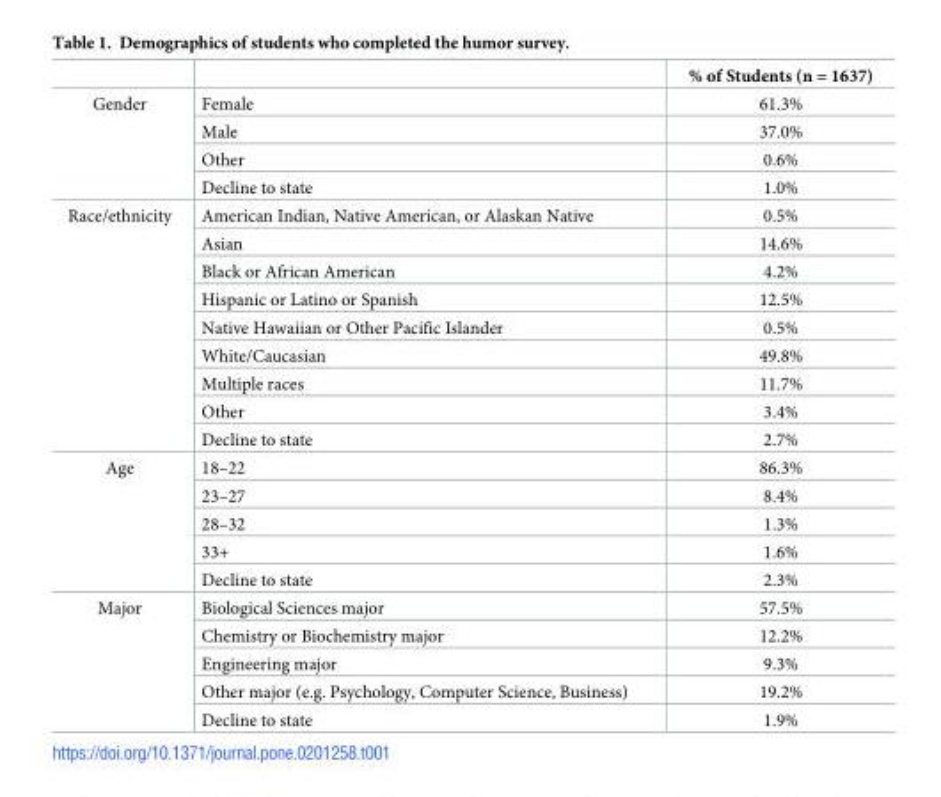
<table><thead><tr><td></td><td></td><td>% of Students (n = 1637)</td></tr></thead><tbody><tr><td rowspan="4">Gender</td><td>Female</td><td>61.3%</td></tr><tr><td>Male</td><td>37.0%</td></tr><tr><td>Other</td><td>0.6%</td></tr><tr><td>Decline to state</td><td>1.0%</td></tr><tr><td rowspan="9">Race/ethnicity</td><td>American Indian, Native American, or Alaskan Native</td><td>0.5%</td></tr><tr><td>Asian</td><td>14.6%</td></tr><tr><td>Black or African American</td><td>4.2%</td></tr><tr><td>Hispanic or Latino or Spanish</td><td>12.5%</td></tr><tr><td>Native Hawaiian or Other Pacific Islander</td><td>0.5%</td></tr><tr><td>White/Caucasian</td><td>49.8%</td></tr><tr><td>Multiple races</td><td>11.7%</td></tr><tr><td>Other</td><td>3.4%</td></tr><tr><td>Decline to state</td><td>2.7%</td></tr><tr><td rowspan="5">Age</td><td>18–22</td><td>86.3%</td></tr><tr><td>23–27</td><td>8.4%</td></tr><tr><td>28–32</td><td>1.3%</td></tr><tr><td>33+</td><td>1.6%</td></tr><tr><td>Decline to state</td><td>2.3%</td></tr><tr><td rowspan="5">Major</td><td>Biological Sciences major</td><td>57.5%</td></tr><tr><td>Chemistry or Biochemistry major</td><td>12.2%</td></tr><tr><td>Engineering major</td><td>9.3%</td></tr><tr><td>Other major (e.g. Psychology, Computer Science, Business)</td><td>19.2%</td></tr><tr><td>Decline to state</td><td>1.9%</td></tr></tbody></table>